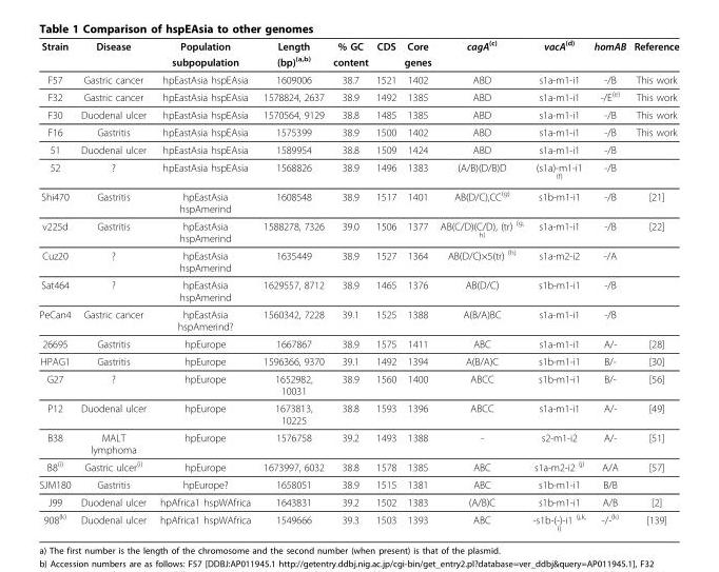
<table><thead><tr><td rowspan="2">Strain</td><td rowspan="2">Disease</td><td rowspan="2">Population subpopulation</td><td rowspan="2">Length (bp)<sup>(a,b)</sup></td><td rowspan="2">% GC content</td><td rowspan="2">CDS</td><td rowspan="2">Core genes</td><td rowspan="2">cagA<sup>(c)</sup></td><td rowspan="2">vacA<sup>(d)</sup></td><td rowspan="2">homAB</td><td rowspan="2">Reference</td></tr><tr></tr></thead><tbody><tr><td>F57</td><td>Gastric cancer</td><td>hpEastAsia hspEAsia</td><td>1609006</td><td>38.7</td><td>1521</td><td>1402</td><td>ABD</td><td>s1a-m1-i1</td><td>-/B</td><td>This work</td></tr><tr><td>F32</td><td>Gastric cancer</td><td>hpEastAsia hspEAsia</td><td>1578824, 2637</td><td>38.9</td><td>1492</td><td>1385</td><td>ABD</td><td>s1a-m1-i1</td><td>-/E<sup>(e)</sup></td><td>This work</td></tr><tr><td>F30</td><td>Duodenal ulcer</td><td>hpEastAsia hspEAsia</td><td>1570564, 9129</td><td>38.8</td><td>1485</td><td>1385</td><td>ABD</td><td>s1a-m1-i1</td><td>-/B</td><td>This work</td></tr><tr><td>F16</td><td>Gastritis</td><td>hpEastAsia hspEAsia</td><td>1575399</td><td>38.9</td><td>1500</td><td>1402</td><td>ABD</td><td>s1a-m1-i1</td><td>-/B</td><td>This work</td></tr><tr><td>51</td><td>Duodenal ulcer</td><td>hpEastAsia hspEAsia</td><td>1589954</td><td>38.8</td><td>1509</td><td>1424</td><td>ABD</td><td>s1a-m1-i1</td><td>-/B</td><td></td></tr><tr><td>52</td><td>?</td><td>hpEastAsia hspEAsia</td><td>1568826</td><td>38.9</td><td>1496</td><td>1383</td><td>(A/B)(D/B)D</td><td>(s1a)-m1-i1 <sup>(f)</sup></td><td>-/B</td><td></td></tr><tr><td>Shi470</td><td>Gastritis</td><td>hpEastAsia hspAmerind</td><td>1608548</td><td>38.9</td><td>1517</td><td>1401</td><td>AB(D/C),CC<sup>(g)</sup></td><td>s1b-m1-i1</td><td>-/B</td><td>[21]</td></tr><tr><td>v225d</td><td>Gastritis</td><td>hpEastAsia hspAmerind</td><td>1588278, 7326</td><td>39.0</td><td>1506</td><td>1377</td><td>AB(C/D)(C/D), (tr) <sup>(g, h)</sup></td><td>s1a-m1-i1</td><td>-/B</td><td>[22]</td></tr><tr><td>Cuz20</td><td>?</td><td>hpEastAsia hspAmerind</td><td>1635449</td><td>38.9</td><td>1527</td><td>1364</td><td>AB(D/C)×5(tr) <sup>(h)</sup></td><td>s1a-m2-i2</td><td>-/A</td><td></td></tr><tr><td>Sat464</td><td>?</td><td>hpEastAsia hspAmerind</td><td>1629557, 8712</td><td>38.9</td><td>1465</td><td>1376</td><td>AB(D/C)</td><td>s1b-m1-i1</td><td>-/B</td><td></td></tr><tr><td>PeCan4</td><td>Gastric cancer</td><td>hpEastAsia hspAmerind?</td><td>1560342, 7228</td><td>39.1</td><td>1525</td><td>1388</td><td>A(B/A)BC</td><td>s1a-m1-i1</td><td>-/B</td><td></td></tr><tr><td>26695</td><td>Gastritis</td><td>hpEurope</td><td>1667867</td><td>38.9</td><td>1575</td><td>1411</td><td>ABC</td><td>s1a-m1-i1</td><td>A/-</td><td>[28]</td></tr><tr><td>HPAG1</td><td>Gastritis</td><td>hpEurope</td><td>1596366, 9370</td><td>39.1</td><td>1492</td><td>1394</td><td>A(B/A)C</td><td>s1b-m1-i1</td><td>B/-</td><td>[30]</td></tr><tr><td>G27</td><td>?</td><td>hpEurope</td><td>1652982, 10031</td><td>38.9</td><td>1560</td><td>1400</td><td>ABCC</td><td>s1b-m1-i1</td><td>B/-</td><td>[56]</td></tr><tr><td>P12</td><td>Duodenal ulcer</td><td>hpEurope</td><td>1673813, 10225</td><td>38.8</td><td>1593</td><td>1396</td><td>ABCC</td><td>s1a-m1-i1</td><td>A/-</td><td>[49]</td></tr><tr><td>B38</td><td>MALT lymphoma</td><td>hpEurope</td><td>1576758</td><td>39.2</td><td>1493</td><td>1388</td><td>-</td><td>s2-m1-i2</td><td>A/-</td><td>[51]</td></tr><tr><td>B8<sup>(i)</sup></td><td>Gastric ulcer<sup>(i)</sup></td><td>hpEurope</td><td>1673997, 6032</td><td>38.8</td><td>1578</td><td>1385</td><td>ABC</td><td>s1a-m2-i2 <sup>(j)</sup></td><td>A/A</td><td>[57]</td></tr><tr><td>SJM180</td><td>Gastritis</td><td>hpEurope?</td><td>1658051</td><td>38.9</td><td>1515</td><td>1381</td><td>ABC</td><td>s1b-m1-i1</td><td>B/B</td><td></td></tr><tr><td>J99</td><td>Duodenal ulcer</td><td>hpAfrica1 hspWAfrica</td><td>1643831</td><td>39.2</td><td>1502</td><td>1383</td><td>(A/B)C</td><td>s1b-m1-i1</td><td>A/B</td><td>[2]</td></tr><tr><td>908<sup>(k)</sup></td><td>Duodenal ulcer</td><td>hpAfrica1 hspWAfrica</td><td>1549666</td><td>39.3</td><td>1503</td><td>1393</td><td>ABC</td><td>-s1b-(-)-i1 <sup>(j,k, l)</sup></td><td>-/-<sup>(k)</sup></td><td>[139]</td></tr></tbody></table>